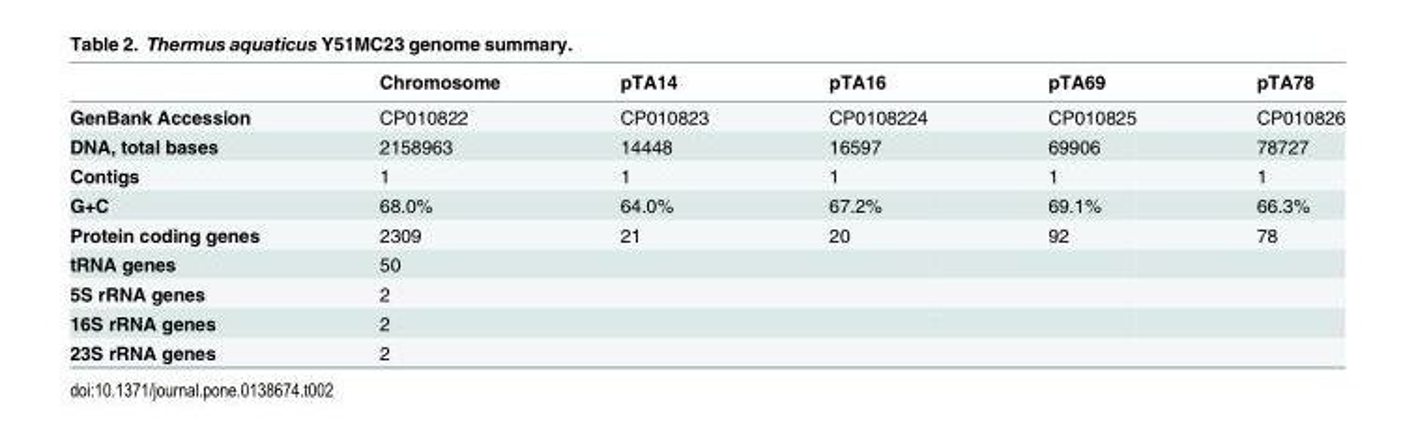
<table><thead><tr><td></td><td>Chromosome</td><td>pTA14</td><td>pTA16</td><td>pTA69</td><td>pTA78</td></tr></thead><tbody><tr><td>GenBank Accession</td><td>CP010822</td><td>CP010823</td><td>CP0108224</td><td>CP010825</td><td>CP010826</td></tr><tr><td>DNA, total bases</td><td>2158963</td><td>14448</td><td>16597</td><td>69906</td><td>78727</td></tr><tr><td>Contigs</td><td>1</td><td>1</td><td>1</td><td>1</td><td>1</td></tr><tr><td>G+C</td><td>68.0%</td><td>64.0%</td><td>67.2%</td><td>69.1%</td><td>66.3%</td></tr><tr><td>Protein coding genes</td><td>2309</td><td>21</td><td>20</td><td>92</td><td>78</td></tr><tr><td>tRNA genes</td><td>50</td><td></td><td></td><td></td><td></td></tr><tr><td>5S rRNA genes</td><td>2</td><td></td><td></td><td></td><td></td></tr><tr><td>16S rRNA genes</td><td>2</td><td></td><td></td><td></td><td></td></tr><tr><td>23S rRNA genes</td><td>2</td><td></td><td></td><td></td><td></td></tr></tbody></table>